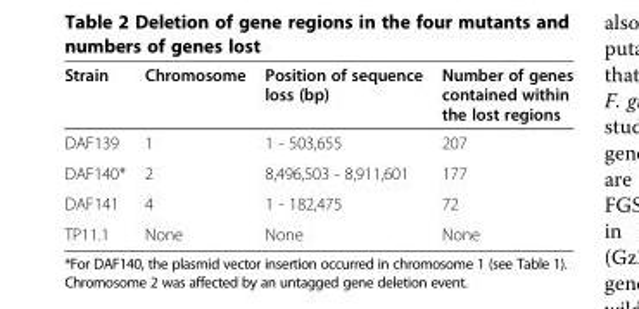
<table><thead><tr><td>Strain</td><td>Chromosome</td><td>Position of sequence loss (bp)</td><td>Number of genes contained within the lost regions</td></tr></thead><tbody><tr><td>DAF139</td><td>1</td><td>1 - 503,655</td><td>207</td></tr><tr><td>DAF140*</td><td>2</td><td>8,496,503 - 8,911,601</td><td>177</td></tr><tr><td>DAF141</td><td>4</td><td>1 - 182,475</td><td>72</td></tr><tr><td>TP11.1</td><td>None</td><td>None</td><td>None</td></tr></tbody></table>